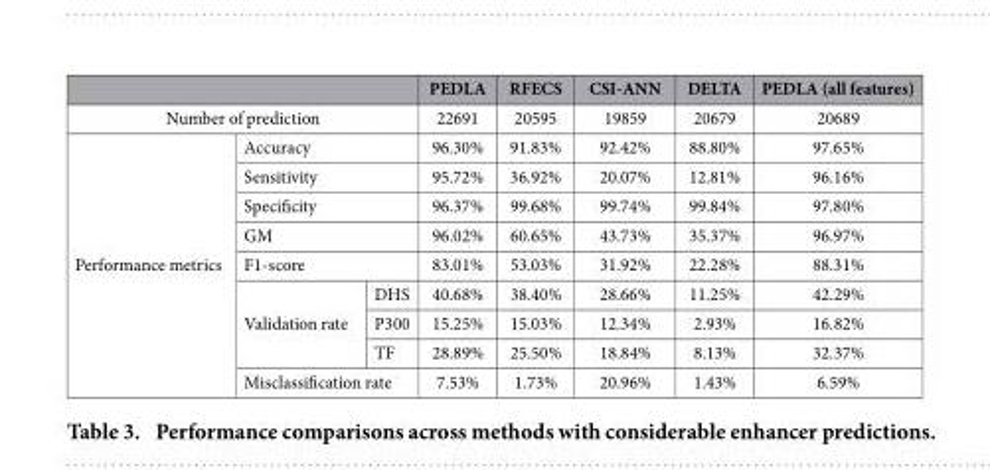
<table><thead><tr><td></td><td></td><td></td><td>PEDLA</td><td>RFECS</td><td>CSI-ANN</td><td>DELTA</td><td>PEDLA (all features)</td></tr></thead><tbody><tr><td colspan="3">Number of prediction</td><td>22691</td><td>20595</td><td>19859</td><td>20679</td><td>20689</td></tr><tr><td rowspan="9">Performance metrics</td><td colspan="2">Accuracy</td><td>96.30%</td><td>91.83%</td><td>92.42%</td><td>88.80%</td><td>97.65%</td></tr><tr><td colspan="2">Sensitivity</td><td>95.72%</td><td>36.92%</td><td>20.07%</td><td>12.81%</td><td>96.16%</td></tr><tr><td colspan="2">Specificity</td><td>96.37%</td><td>99.68%</td><td>99.74%</td><td>99.84%</td><td>97.80%</td></tr><tr><td colspan="2">GM</td><td>96.02%</td><td>60.65%</td><td>43.73%</td><td>35.37%</td><td>96.97%</td></tr><tr><td colspan="2">F1-score</td><td>83.01%</td><td>53.03%</td><td>31.92%</td><td>22.28%</td><td>88.31%</td></tr><tr><td rowspan="3">Validation rate</td><td>DHS</td><td>40.68%</td><td>38.40%</td><td>28.66%</td><td>11.25%</td><td>42.29%</td></tr><tr><td>P300</td><td>15.25%</td><td>15.03%</td><td>12.34%</td><td>2.93%</td><td>16.82%</td></tr><tr><td>TF</td><td>28.89%</td><td>25.50%</td><td>18.84%</td><td>8.13%</td><td>32.37%</td></tr><tr><td colspan="2">Misclassification rate</td><td>7.53%</td><td>1.73%</td><td>20.96%</td><td>1.43%</td><td>6.59%</td></tr></tbody></table>